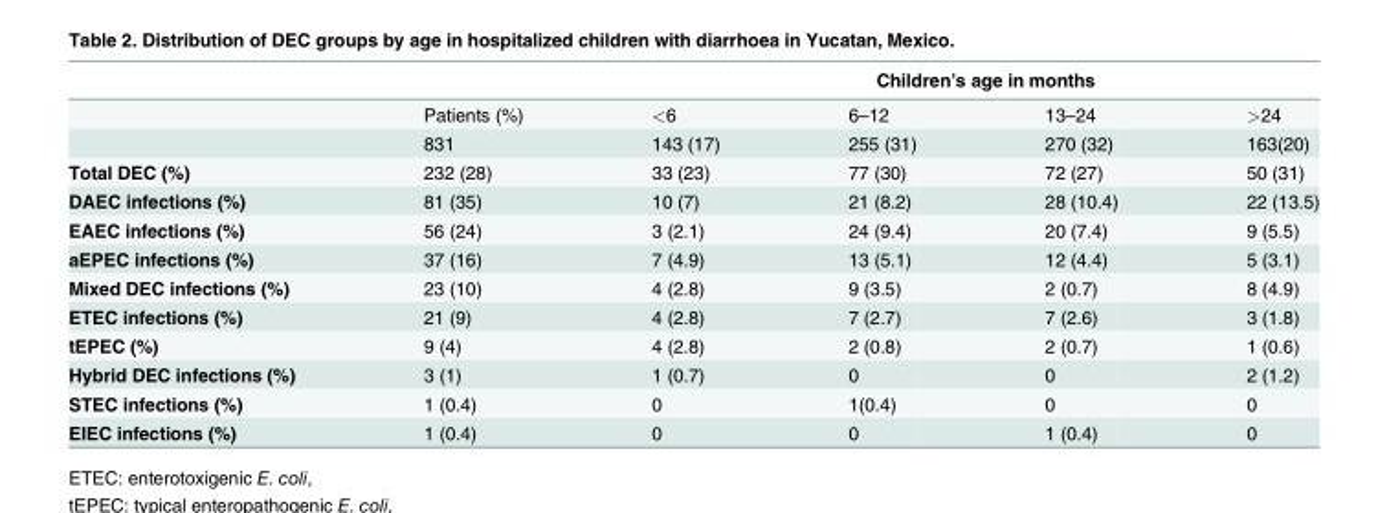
<table><thead><tr><td rowspan="2"></td><td rowspan="2">Patients (%)</td><td colspan="4">Children’s age in months</td></tr><tr><td>&lt;6</td><td>6–12</td><td>13–24</td><td>&gt;24</td></tr></thead><tbody><tr><td></td><td>831</td><td>143 (17)</td><td>255 (31)</td><td>270 (32)</td><td>163(20)</td></tr><tr><td>Total DEC (%)</td><td>232 (28)</td><td>33 (23)</td><td>77 (30)</td><td>72 (27)</td><td>50 (31)</td></tr><tr><td>DAEC infections (%)</td><td>81 (35)</td><td>10 (7)</td><td>21 (8.2)</td><td>28 (10.4)</td><td>22 (13.5)</td></tr><tr><td>EAEC infections (%)</td><td>56 (24)</td><td>3 (2.1)</td><td>24 (9.4)</td><td>20 (7.4)</td><td>9 (5.5)</td></tr><tr><td>aEPEC infections (%)</td><td>37 (16)</td><td>7 (4.9)</td><td>13 (5.1)</td><td>12 (4.4)</td><td>5 (3.1)</td></tr><tr><td>Mixed DEC infections (%)</td><td>23 (10)</td><td>4 (2.8)</td><td>9 (3.5)</td><td>2 (0.7)</td><td>8 (4.9)</td></tr><tr><td>ETEC infections (%)</td><td>21 (9)</td><td>4 (2.8)</td><td>7 (2.7)</td><td>7 (2.6)</td><td>3 (1.8)</td></tr><tr><td>tEPEC (%)</td><td>9 (4)</td><td>4 (2.8)</td><td>2 (0.8)</td><td>2 (0.7)</td><td>1 (0.6)</td></tr><tr><td>Hybrid DEC infections (%)</td><td>3 (1)</td><td>1 (0.7)</td><td>0</td><td>0</td><td>2 (1.2)</td></tr><tr><td>STEC infections (%)</td><td>1 (0.4)</td><td>0</td><td>1(0.4)</td><td>0</td><td>0</td></tr><tr><td>EIEC infections (%)</td><td>1 (0.4)</td><td>0</td><td>0</td><td>1 (0.4)</td><td>0</td></tr></tbody></table>